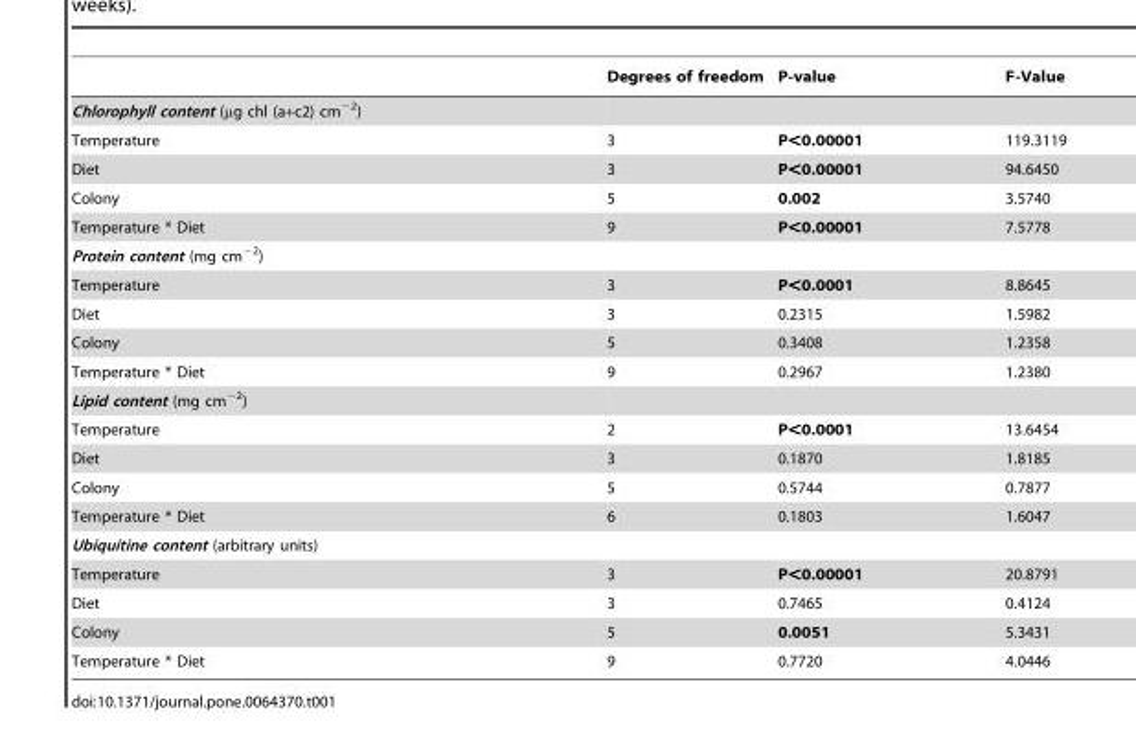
<table><thead><tr><td></td><td>Degrees of freedom</td><td>P-value</td><td>F-Value</td></tr></thead><tbody><tr><td colspan="4">Chlorophyll content (μg chl (a+c2) cm<sup>−2</sup>)</td></tr><tr><td>Temperature</td><td>3</td><td>P&lt;0.00001</td><td>119.3119</td></tr><tr><td>Diet</td><td>3</td><td>P&lt;0.00001</td><td>94.6450</td></tr><tr><td>Colony</td><td>5</td><td>0.002</td><td>3.5740</td></tr><tr><td>Temperature * Diet</td><td>9</td><td>P&lt;0.00001</td><td>7.5778</td></tr><tr><td colspan="4">Protein content (mg cm<sup>−2</sup>)</td></tr><tr><td>Temperature</td><td>3</td><td>P&lt;0.0001</td><td>8.8645</td></tr><tr><td>Diet</td><td>3</td><td>0.2315</td><td>1.5982</td></tr><tr><td>Colony</td><td>5</td><td>0.3408</td><td>1.2358</td></tr><tr><td>Temperature * Diet</td><td>9</td><td>0.2967</td><td>1.2380</td></tr><tr><td colspan="4">Lipid content (mg cm<sup>−2</sup>)</td></tr><tr><td>Temperature</td><td>2</td><td>P&lt;0.0001</td><td>13.6454</td></tr><tr><td>Diet</td><td>3</td><td>0.1870</td><td>1.8185</td></tr><tr><td>Colony</td><td>5</td><td>0.5744</td><td>0.7877</td></tr><tr><td>Temperature * Diet</td><td>6</td><td>0.1803</td><td>1.6047</td></tr><tr><td colspan="4">Ubiquitine content (arbitrary units)</td></tr><tr><td>Temperature</td><td>3</td><td>P&lt;0.00001</td><td>20.8791</td></tr><tr><td>Diet</td><td>3</td><td>0.7465</td><td>0.4124</td></tr><tr><td>Colony</td><td>5</td><td>0.0051</td><td>5.3431</td></tr><tr><td>Temperature * Diet</td><td>9</td><td>0.7720</td><td>4.0446</td></tr></tbody></table>